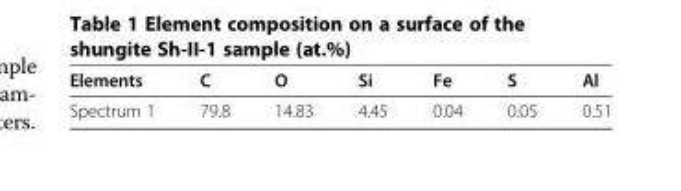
<table><thead><tr><td>Elements</td><td>C</td><td>O</td><td>Si</td><td>Fe</td><td>S</td><td>Al</td></tr></thead><tbody><tr><td>Spectrum 1</td><td>79.8</td><td>14.83</td><td>4.45</td><td>0.04</td><td>0.05</td><td>0.51</td></tr></tbody></table>